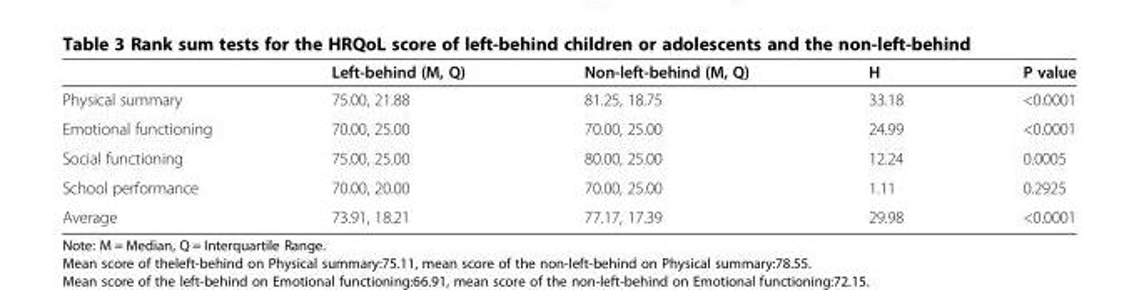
<table><thead><tr><td></td><td>Left-behind (M, Q)</td><td>Non-left-behind (M, Q)</td><td>H</td><td>P value</td></tr></thead><tbody><tr><td>Physical summary</td><td>75.00, 21.88</td><td>81.25, 18.75</td><td>33.18</td><td>&lt;0.0001</td></tr><tr><td>Emotional functioning</td><td>70.00, 25.00</td><td>70.00, 25.00</td><td>24.99</td><td>&lt;0.0001</td></tr><tr><td>Social functioning</td><td>75.00, 25.00</td><td>80.00, 25.00</td><td>12.24</td><td>0.0005</td></tr><tr><td>School performance</td><td>70.00, 20.00</td><td>70.00, 25.00</td><td>1.11</td><td>0.2925</td></tr><tr><td>Average</td><td>73.91, 18.21</td><td>77.17, 17.39</td><td>29.98</td><td>&lt;0.0001</td></tr></tbody></table>